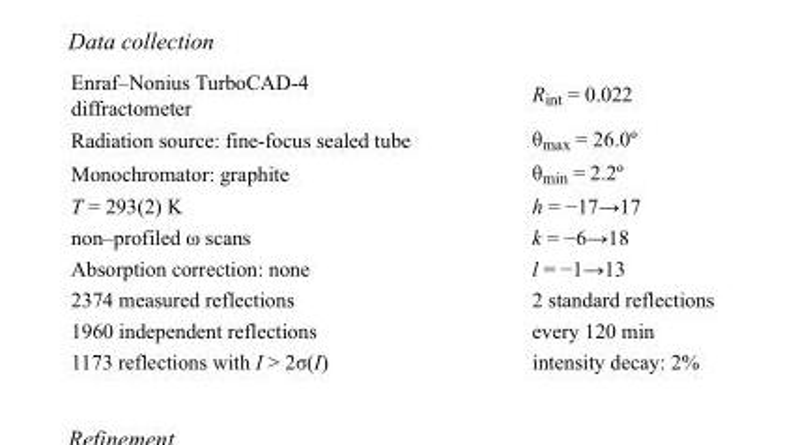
<table><tbody><tr><td>Enraf–Nonius TurboCAD-4 diffractometer</td><td>R<sub>int</sub> = 0.022</td></tr><tr><td>Radiation source: fine-focus sealed tube</td><td>θ<sub>max</sub> = 26.0º</td></tr><tr><td>Monochromator: graphite</td><td>θ<sub>min</sub> = 2.2º</td></tr><tr><td>T = 293(2) K</td><td>h = −17→17</td></tr><tr><td>non–profiled ω scans</td><td>k = −6→18</td></tr><tr><td>Absorption correction: none</td><td>l = −1→13</td></tr><tr><td>2374 measured reflections</td><td>2 standard reflections</td></tr><tr><td>1960 independent reflections</td><td>every 120 min</td></tr><tr><td>1173 reflections with I &gt; 2σ(I)</td><td>intensity decay: 2%</td></tr></tbody></table>